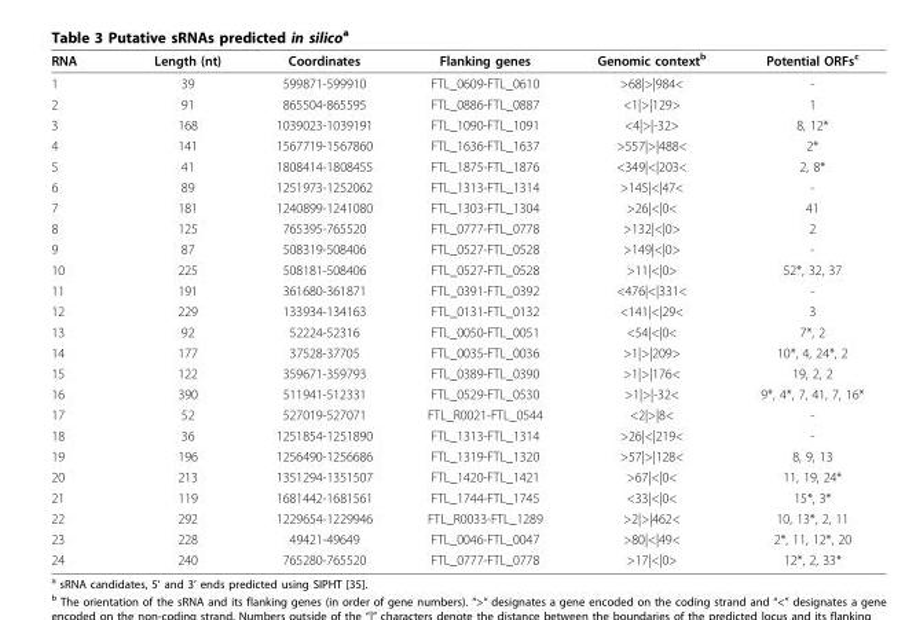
<table><thead><tr><td>RNA</td><td>Length (nt)</td><td>Coordinates</td><td>Flanking genes</td><td>Genomic context<sup>b</sup></td><td>Potential ORFs<sup>c</sup></td></tr></thead><tbody><tr><td>1</td><td>39</td><td>599871-599910</td><td>FTL_0609-FTL_0610</td><td>&gt;68|&gt;|984&lt;</td><td>-</td></tr><tr><td>2</td><td>91</td><td>865504-865595</td><td>FTL_0886-FTL_0887</td><td>&lt;1|&gt;|129&gt;</td><td>1</td></tr><tr><td>3</td><td>168</td><td>1039023-1039191</td><td>FTL_1090-FTL_1091</td><td>&lt;4|&gt;|-32&gt;</td><td>8, 12*</td></tr><tr><td>4</td><td>141</td><td>1567719-1567860</td><td>FTL_1636-FTL_1637</td><td>&gt;557|&gt;|488&lt;</td><td>2*</td></tr><tr><td>5</td><td>41</td><td>1808414-1808455</td><td>FTL_1875-FTL_1876</td><td>&lt;349|&lt;|203&lt;</td><td>2, 8*</td></tr><tr><td>6</td><td>89</td><td>1251973-1252062</td><td>FTL_1313-FTL_1314</td><td>&gt;145|&lt;|47&lt;</td><td>-</td></tr><tr><td>7</td><td>181</td><td>1240899-1241080</td><td>FTL_1303-FTL_1304</td><td>&gt;26|&lt;|0&lt;</td><td>41</td></tr><tr><td>8</td><td>125</td><td>765395-765520</td><td>FTL_0777-FTL_0778</td><td>&gt;132|&lt;|0&gt;</td><td>2</td></tr><tr><td>9</td><td>87</td><td>508319-508406</td><td>FTL_0527-FTL_0528</td><td>&gt;149|&lt;|0&gt;</td><td>-</td></tr><tr><td>10</td><td>225</td><td>508181-508406</td><td>FTL_0527-FTL_0528</td><td>&gt;11|&lt;|0&gt;</td><td>52*, 32, 37</td></tr><tr><td>11</td><td>191</td><td>361680-361871</td><td>FTL_0391-FTL_0392</td><td>&lt;476|&lt;|331&lt;</td><td>-</td></tr><tr><td>12</td><td>229</td><td>133934-134163</td><td>FTL_0131-FTL_0132</td><td>&lt;141|&lt;|29&lt;</td><td>3</td></tr><tr><td>13</td><td>92</td><td>52224-52316</td><td>FTL_0050-FTL_0051</td><td>&lt;54|&lt;|0&lt;</td><td>7*, 2</td></tr><tr><td>14</td><td>177</td><td>37528-37705</td><td>FTL_0035-FTL_0036</td><td>&gt;1|&gt;|209&gt;</td><td>10*, 4, 24*, 2</td></tr><tr><td>15</td><td>122</td><td>359671-359793</td><td>FTL_0389-FTL_0390</td><td>&gt;1|&gt;|176&lt;</td><td>19, 2, 2</td></tr><tr><td>16</td><td>390</td><td>511941-512331</td><td>FTL_0529-FTL_0530</td><td>&gt;1|&gt;|-32&lt;</td><td>9*, 4*, 7, 41, 7, 16*</td></tr><tr><td>17</td><td>52</td><td>527019-527071</td><td>FTL_R0021-FTL_0544</td><td>&lt;2|&gt;|8&lt;</td><td>-</td></tr><tr><td>18</td><td>36</td><td>1251854-1251890</td><td>FTL_1313-FTL_1314</td><td>&gt;26|&lt;|219&lt;</td><td>-</td></tr><tr><td>19</td><td>196</td><td>1256490-1256686</td><td>FTL_1319-FTL_1320</td><td>&gt;57|&gt;|128&lt;</td><td>8, 9, 13</td></tr><tr><td>20</td><td>213</td><td>1351294-1351507</td><td>FTL_1420-FTL_1421</td><td>&gt;67|&lt;|0&lt;</td><td>11, 19, 24*</td></tr><tr><td>21</td><td>119</td><td>1681442-1681561</td><td>FTL_1744-FTL_1745</td><td>&lt;33|&lt;|0&lt;</td><td>15*, 3*</td></tr><tr><td>22</td><td>292</td><td>1229654-1229946</td><td>FTL_R0033-FTL_1289</td><td>&gt;2|&gt;|462&lt;</td><td>10, 13*, 2, 11</td></tr><tr><td>23</td><td>228</td><td>49421-49649</td><td>FTL_0046-FTL_0047</td><td>&gt;80|&lt;|49&lt;</td><td>2*, 11, 12*, 20</td></tr><tr><td>24</td><td>240</td><td>765280-765520</td><td>FTL_0777-FTL_0778</td><td>&gt;17|&lt;|0&gt;</td><td>12*, 2, 33*</td></tr></tbody></table>